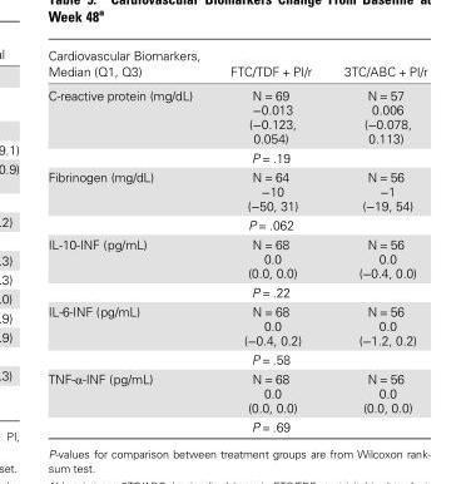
<table><thead><tr><td>Cardiovascular Biomarkers, Median (Q1, Q3)</td><td>FTC/TDF + PI/r</td><td>3TC/ABC + PI/r</td></tr></thead><tbody><tr><td rowspan="2">C-reactive protein (mg/dL)</td><td>N = 69 −0.013 (−0.123, 0.054)</td><td>N = 57 0.006 (−0.078, 0.113)</td></tr><tr><td>P = .19</td><td></td></tr><tr><td rowspan="2">Fibrinogen (mg/dL)</td><td>N = 64 −10 (−50, 31)</td><td>N = 56 −1 (−19, 54)</td></tr><tr><td>P = .062</td><td></td></tr><tr><td rowspan="2">IL-10-INF (pg/mL)</td><td>N = 68 0.0 (0.0, 0.0)</td><td>N = 56 0.0 (−0.4, 0.0)</td></tr><tr><td>P = .22</td><td></td></tr><tr><td rowspan="2">IL-6-INF (pg/mL)</td><td>N = 68 0.0 (−0.4, 0.2)</td><td>N = 56 0.0 (−1.2, 0.2)</td></tr><tr><td>P = .58</td><td></td></tr><tr><td rowspan="2">TNF-α-INF (pg/mL)</td><td>N = 68 0.0 (0.0, 0.0)</td><td>N = 56 0.0 (0.0, 0.0)</td></tr><tr><td>P = .69</td><td></td></tr></tbody></table>